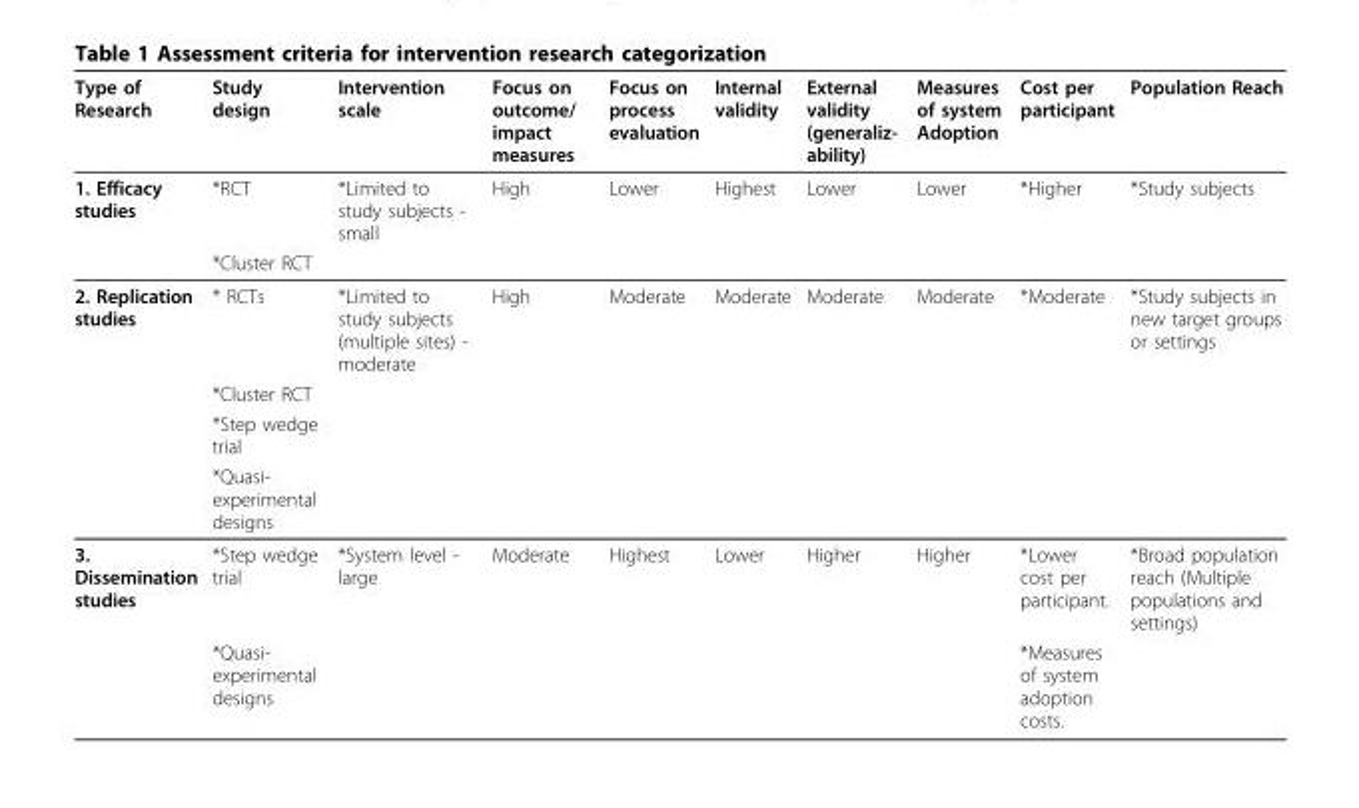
<table><thead><tr><td>Type of Research</td><td>Study design</td><td>Intervention scale</td><td>Focus on outcome/ impact measures</td><td>Focus on process evaluation</td><td>Internal validity</td><td>External validity (generaliz- ability)</td><td>Measures of system Adoption</td><td>Cost per participant</td><td>Population Reach</td></tr></thead><tbody><tr><td rowspan="2">1. Efficacy studies</td><td>*RCT</td><td>*Limited to study subjects - small</td><td>High</td><td>Lower</td><td>Highest</td><td>Lower</td><td>Lower</td><td>*Higher</td><td>*Study subjects</td></tr><tr><td>*Cluster RCT</td><td></td><td></td><td></td><td></td><td></td><td></td><td></td><td></td></tr><tr><td rowspan="4">2. Replication studies</td><td>* RCTs</td><td>*Limited to study subjects (multiple sites) - moderate</td><td>High</td><td>Moderate</td><td>Moderate</td><td>Moderate</td><td>Moderate</td><td>*Moderate</td><td>*Study subjects in new target groups or settings</td></tr><tr><td>*Cluster RCT</td><td></td><td></td><td></td><td></td><td></td><td></td><td></td><td></td></tr><tr><td>*Step wedge trial</td><td></td><td></td><td></td><td></td><td></td><td></td><td></td><td></td></tr><tr><td>*Quasi- experimental designs</td><td></td><td></td><td></td><td></td><td></td><td></td><td></td><td></td></tr><tr><td rowspan="2">3. Dissemination studies</td><td>*Step wedge trial</td><td>*System level - large</td><td>Moderate</td><td>Highest</td><td>Lower</td><td>Higher</td><td>Higher</td><td>*Lower cost per participant.</td><td>*Broad population reach (Multiple populations and settings)</td></tr><tr><td>*Quasi- experimental designs</td><td></td><td></td><td></td><td></td><td></td><td></td><td>*Measures of system adoption costs.</td><td></td></tr></tbody></table>